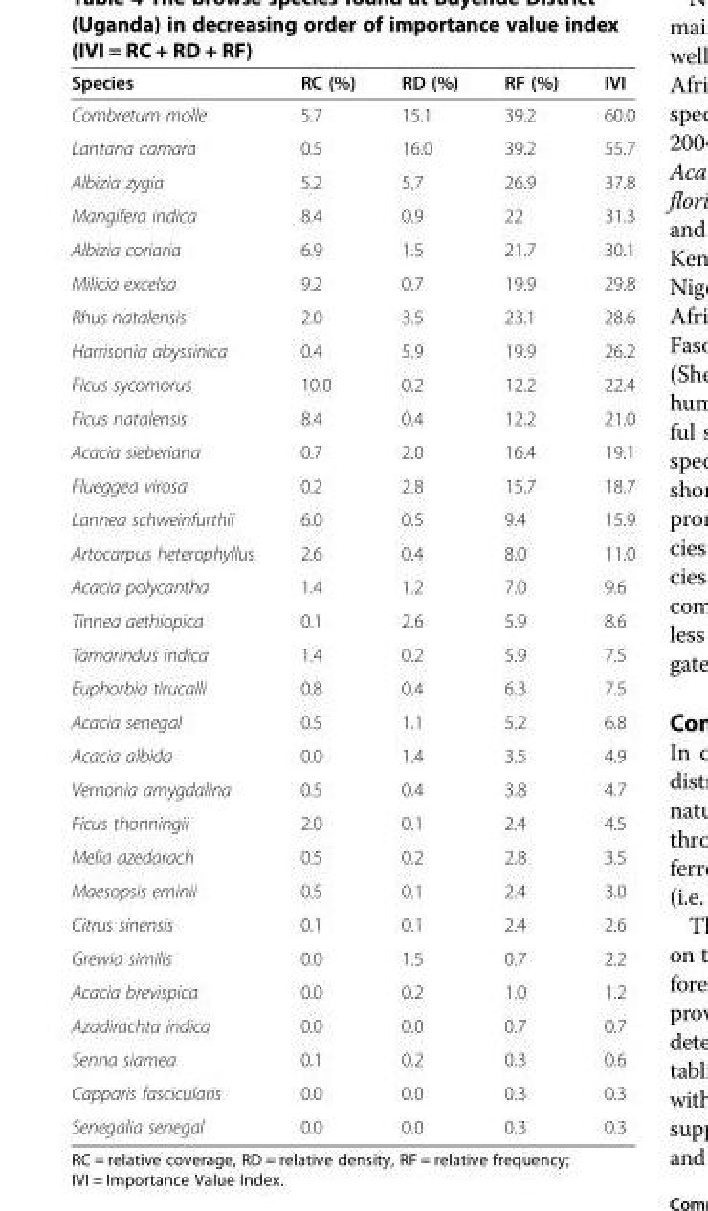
<table><thead><tr><td>Species</td><td>RC (%)</td><td>RD (%)</td><td>RF (%)</td><td>IVI</td></tr></thead><tbody><tr><td>Combretum molle</td><td>5.7</td><td>15.1</td><td>39.2</td><td>60.0</td></tr><tr><td>Lantana camara</td><td>0.5</td><td>16.0</td><td>39.2</td><td>55.7</td></tr><tr><td>Albizia zygia</td><td>5.2</td><td>5.7</td><td>26.9</td><td>37.8</td></tr><tr><td>Mangifera indica</td><td>8.4</td><td>0.9</td><td>22</td><td>31.3</td></tr><tr><td>Albizia coriaria</td><td>6.9</td><td>1.5</td><td>21.7</td><td>30.1</td></tr><tr><td>Milicia excelsa</td><td>9.2</td><td>0.7</td><td>19.9</td><td>29.8</td></tr><tr><td>Rhus natalensis</td><td>2.0</td><td>3.5</td><td>23.1</td><td>28.6</td></tr><tr><td>Harrisonia abyssinica</td><td>0.4</td><td>5.9</td><td>19.9</td><td>26.2</td></tr><tr><td>Ficus sycomorus</td><td>10.0</td><td>0.2</td><td>12.2</td><td>22.4</td></tr><tr><td>Ficus natalensis</td><td>8.4</td><td>0.4</td><td>12.2</td><td>21.0</td></tr><tr><td>Acacia sieberiana</td><td>0.7</td><td>2.0</td><td>16.4</td><td>19.1</td></tr><tr><td>Flueggea virosa</td><td>0.2</td><td>2.8</td><td>15.7</td><td>18.7</td></tr><tr><td>Lannea schweinfurthii</td><td>6.0</td><td>0.5</td><td>9.4</td><td>15.9</td></tr><tr><td>Artocarpus heterophyllus</td><td>2.6</td><td>0.4</td><td>8.0</td><td>11.0</td></tr><tr><td>Acacia polycantha</td><td>1.4</td><td>1.2</td><td>7.0</td><td>9.6</td></tr><tr><td>Tinnea aethiopica</td><td>0.1</td><td>2.6</td><td>5.9</td><td>8.6</td></tr><tr><td>Tamarindus indica</td><td>1.4</td><td>0.2</td><td>5.9</td><td>7.5</td></tr><tr><td>Euphorbia tirucalli</td><td>0.8</td><td>0.4</td><td>6.3</td><td>7.5</td></tr><tr><td>Acacia senegal</td><td>0.5</td><td>1.1</td><td>5.2</td><td>6.8</td></tr><tr><td>Acacia albida</td><td>0.0</td><td>1.4</td><td>3.5</td><td>4.9</td></tr><tr><td>Vernonia amygdalina</td><td>0.5</td><td>0.4</td><td>3.8</td><td>4.7</td></tr><tr><td>Ficus thonningii</td><td>2.0</td><td>0.1</td><td>2.4</td><td>4.5</td></tr><tr><td>Melia azedarach</td><td>0.5</td><td>0.2</td><td>2.8</td><td>3.5</td></tr><tr><td>Maesopsis eminii</td><td>0.5</td><td>0.1</td><td>2.4</td><td>3.0</td></tr><tr><td>Citrus sinensis</td><td>0.1</td><td>0.1</td><td>2.4</td><td>2.6</td></tr><tr><td>Grewia similis</td><td>0.0</td><td>1.5</td><td>0.7</td><td>2.2</td></tr><tr><td>Acacia brevispica</td><td>0.0</td><td>0.2</td><td>1.0</td><td>1.2</td></tr><tr><td>Azadirachta indica</td><td>0.0</td><td>0.0</td><td>0.7</td><td>0.7</td></tr><tr><td>Senna siamea</td><td>0.1</td><td>0.2</td><td>0.3</td><td>0.6</td></tr><tr><td>Capparis fascicularis</td><td>0.0</td><td>0.0</td><td>0.3</td><td>0.3</td></tr><tr><td>Senegalia senegal</td><td>0.0</td><td>0.0</td><td>0.3</td><td>0.3</td></tr></tbody></table>